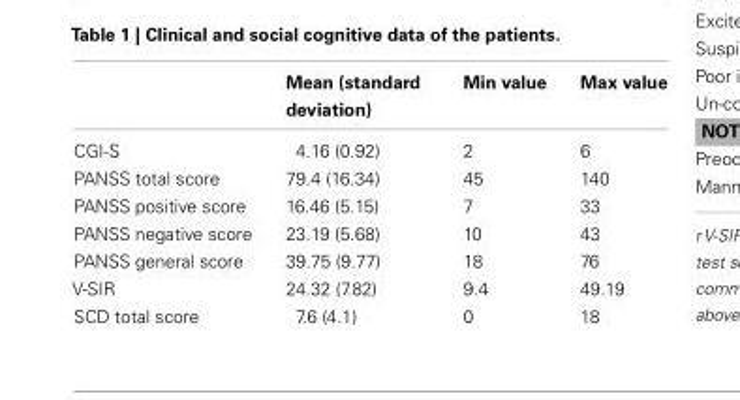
<table><thead><tr><td></td><td>Mean (standard deviation)</td><td>Min value</td><td>Max value</td></tr></thead><tbody><tr><td>CGI-S</td><td>4.16 (0.92)</td><td>2</td><td>6</td></tr><tr><td>PANSS total score</td><td>79.4 (16.34)</td><td>45</td><td>140</td></tr><tr><td>PANSS positive score</td><td>16.46 (5.15)</td><td>7</td><td>33</td></tr><tr><td>PANSS negative score</td><td>23.19 (5.68)</td><td>10</td><td>43</td></tr><tr><td>PANSS general score</td><td>39.75 (9.77)</td><td>18</td><td>76</td></tr><tr><td>V-SIR</td><td>24.32 (7.82)</td><td>9.4</td><td>49.19</td></tr><tr><td>SCD total score</td><td>7.6 (4.1)</td><td>0</td><td>18</td></tr></tbody></table>